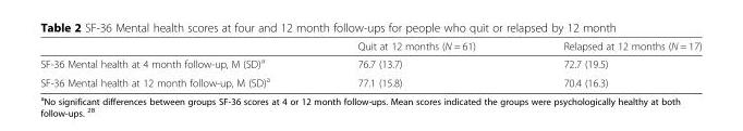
<table><thead><tr><td></td><td>Quit at 12 months (N = 61)</td><td>Relapsed at 12 months (N = 17)</td></tr></thead><tbody><tr><td>SF-36 Mental health at 4 month follow-up, M (SD)<sup>a</sup></td><td>76.7 (13.7)</td><td>72.7 (19.5)</td></tr><tr><td>SF-36 Mental health at 12 month follow-up, M (SD)<sup>a</sup></td><td>77.1 (15.8)</td><td>70.4 (16.3)</td></tr></tbody></table>